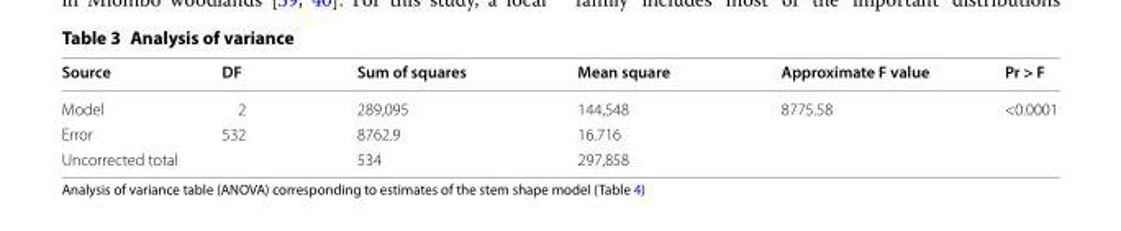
<table><thead><tr><td>Source</td><td>DF</td><td>Sum of squares</td><td>Mean square</td><td>Approximate F value</td><td>Pr &gt; F</td></tr></thead><tbody><tr><td>Model</td><td>2</td><td>289,095</td><td>144,548</td><td>8775.58</td><td>&lt;0.0001</td></tr><tr><td>Error</td><td>532</td><td>8762.9</td><td>16.716</td><td></td><td></td></tr><tr><td>Uncorrected total</td><td></td><td>534</td><td>297,858</td><td></td><td></td></tr></tbody></table>